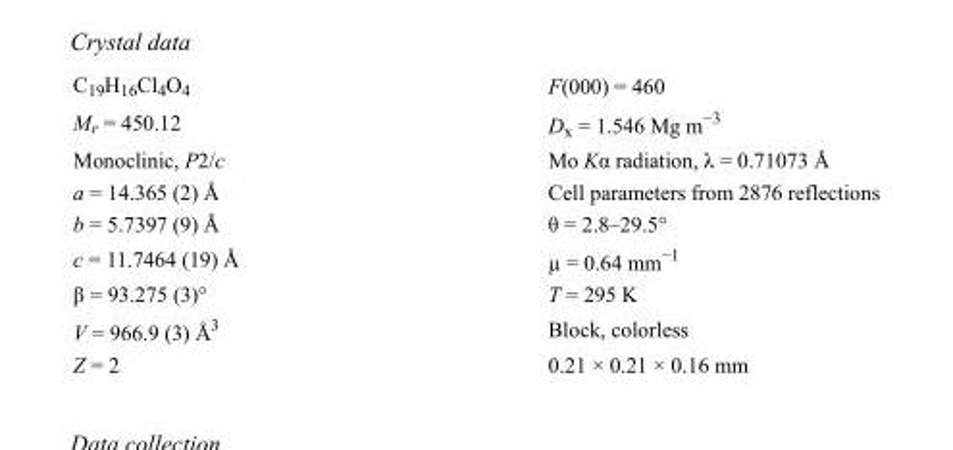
<table><tbody><tr><td>C<sub>19</sub>H<sub>16</sub>Cl<sub>4</sub>O<sub>4</sub></td><td>F(000) = 460</td></tr><tr><td>M<sub>r</sub> = 450.12</td><td>D<sub>x</sub> = 1.546 Mg m<sup>−3</sup></td></tr><tr><td>Monoclinic, P2/c</td><td>Mo Kα radiation, λ = 0.71073 Å</td></tr><tr><td>a = 14.365 (2) Å</td><td>Cell parameters from 2876 reflections</td></tr><tr><td>b = 5.7397 (9) Å</td><td>θ = 2.8–29.5°</td></tr><tr><td>c = 11.7464 (19) Å</td><td>µ = 0.64 mm<sup>−1</sup></td></tr><tr><td>β = 93.275 (3)°</td><td>T = 295 K</td></tr><tr><td>V = 966.9 (3) Å<sup>3</sup></td><td>Block, colorless</td></tr><tr><td>Z = 2</td><td>0.21 × 0.21 × 0.16 mm</td></tr></tbody></table>